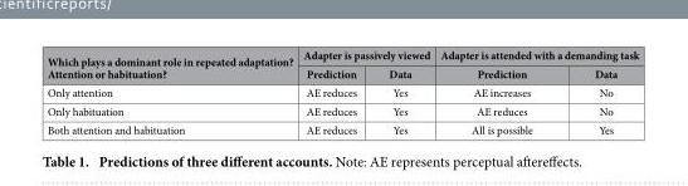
<table><thead><tr><td rowspan="2">Which plays a dominant role in repeated adaptation? Attention or habituation?</td><td colspan="2">Adapter is passively viewed</td><td colspan="2">Adapter is attended with a demanding task</td></tr><tr><td>Prediction</td><td>Data</td><td>Prediction</td><td>Data</td></tr></thead><tbody><tr><td>Only attention</td><td>AE reduces</td><td>Yes</td><td>AE increases</td><td>No</td></tr><tr><td>Only habituation</td><td>AE reduces</td><td>Yes</td><td>AE reduces</td><td>No</td></tr><tr><td>Both attention and habituation</td><td>AE reduces</td><td>Yes</td><td>All is possible</td><td>Yes</td></tr></tbody></table>